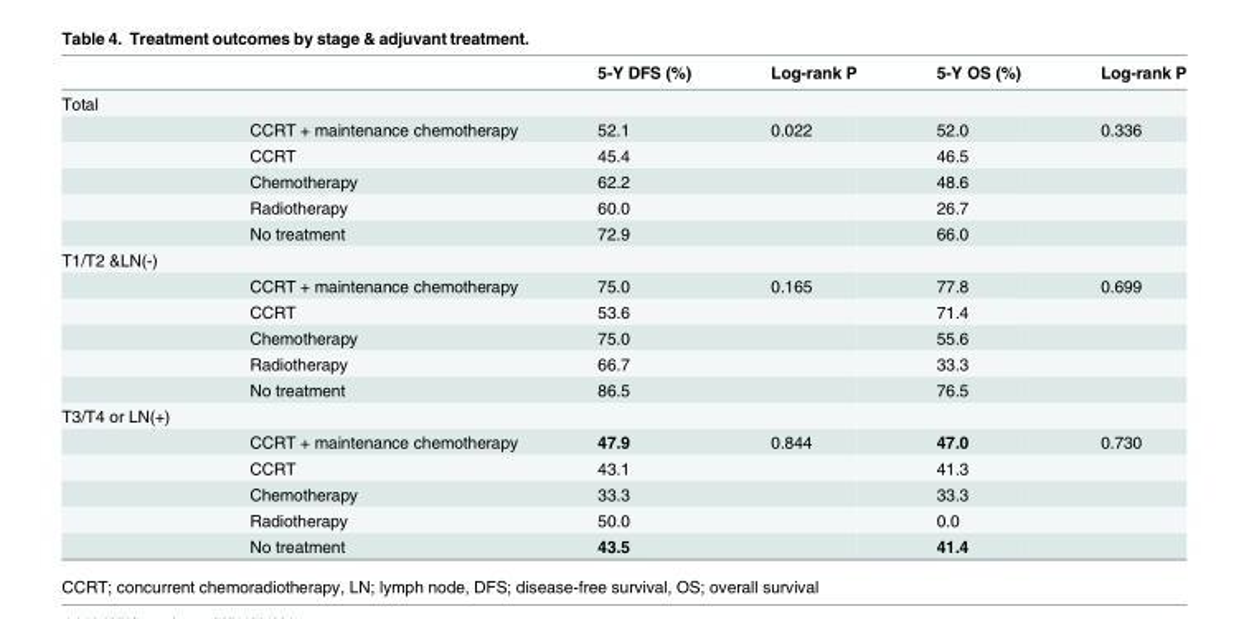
<table><thead><tr><td></td><td></td><td>5-Y DFS (%)</td><td>Log-rank P</td><td>5-Y OS (%)</td><td>Log-rank P</td></tr></thead><tbody><tr><td colspan="6">Total</td></tr><tr><td></td><td>CCRT + maintenance chemotherapy</td><td>52.1</td><td>0.022</td><td>52.0</td><td>0.336</td></tr><tr><td></td><td>CCRT</td><td>45.4</td><td></td><td>46.5</td><td></td></tr><tr><td></td><td>Chemotherapy</td><td>62.2</td><td></td><td>48.6</td><td></td></tr><tr><td></td><td>Radiotherapy</td><td>60.0</td><td></td><td>26.7</td><td></td></tr><tr><td></td><td>No treatment</td><td>72.9</td><td></td><td>66.0</td><td></td></tr><tr><td colspan="6">T1/T2 &amp;LN(-)</td></tr><tr><td></td><td>CCRT + maintenance chemotherapy</td><td>75.0</td><td>0.165</td><td>77.8</td><td>0.699</td></tr><tr><td></td><td>CCRT</td><td>53.6</td><td></td><td>71.4</td><td></td></tr><tr><td></td><td>Chemotherapy</td><td>75.0</td><td></td><td>55.6</td><td></td></tr><tr><td></td><td>Radiotherapy</td><td>66.7</td><td></td><td>33.3</td><td></td></tr><tr><td></td><td>No treatment</td><td>86.5</td><td></td><td>76.5</td><td></td></tr><tr><td colspan="6">T3/T4 or LN(+)</td></tr><tr><td></td><td>CCRT + maintenance chemotherapy</td><td>47.9</td><td>0.844</td><td>47.0</td><td>0.730</td></tr><tr><td></td><td>CCRT</td><td>43.1</td><td></td><td>41.3</td><td></td></tr><tr><td></td><td>Chemotherapy</td><td>33.3</td><td></td><td>33.3</td><td></td></tr><tr><td></td><td>Radiotherapy</td><td>50.0</td><td></td><td>0.0</td><td></td></tr><tr><td></td><td>No treatment</td><td>43.5</td><td></td><td>41.4</td><td></td></tr></tbody></table>